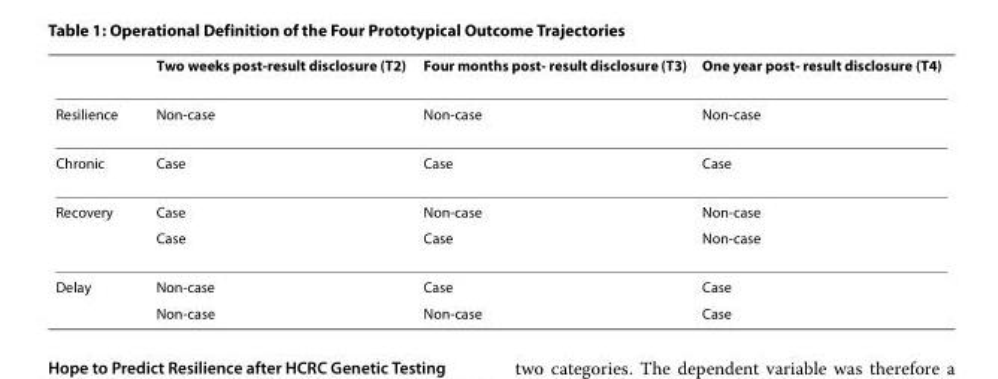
<table><thead><tr><td></td><td>Two weeks post-result disclosure (T2)</td><td>Four months post- result disclosure (T3)</td><td>One year post- result disclosure (T4)</td></tr></thead><tbody><tr><td>Resilience</td><td>Non-case</td><td>Non-case</td><td>Non-case</td></tr><tr><td>Chronic</td><td>Case</td><td>Case</td><td>Case</td></tr><tr><td rowspan="2">Recovery</td><td>Case</td><td>Non-case</td><td>Non-case</td></tr><tr><td>Case</td><td>Case</td><td>Non-case</td></tr><tr><td rowspan="2">Delay</td><td>Non-case</td><td>Case</td><td>Case</td></tr><tr><td>Non-case</td><td>Non-case</td><td>Case</td></tr></tbody></table>